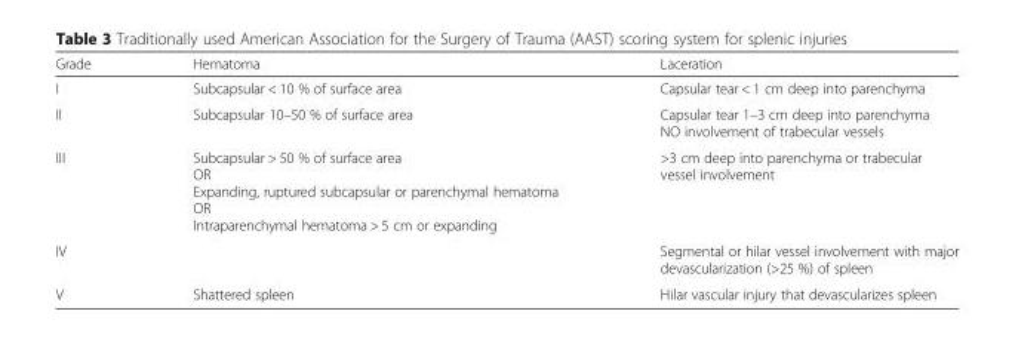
<table><thead><tr><td>Grade</td><td>Hematoma</td><td>Laceration</td></tr></thead><tbody><tr><td>I</td><td>Subcapsular &lt; 10 % of surface area</td><td>Capsular tear &lt; 1 cm deep into parenchyma</td></tr><tr><td>II</td><td>Subcapsular 10–50 % of surface area</td><td>Capsular tear 1–3 cm deep into parenchyma NO involvement of trabecular vessels</td></tr><tr><td>III</td><td>Subcapsular &gt; 50 % of surface area OR Expanding, ruptured subcapsular or parenchymal hematoma OR Intraparenchymal hematoma &gt; 5 cm or expanding</td><td>&gt;3 cm deep into parenchyma or trabecular vessel involvement</td></tr><tr><td>IV</td><td></td><td>Segmental or hilar vessel involvement with major devascularization (&gt;25 %) of spleen</td></tr><tr><td>V</td><td>Shattered spleen</td><td>Hilar vascular injury that devascularizes spleen</td></tr></tbody></table>